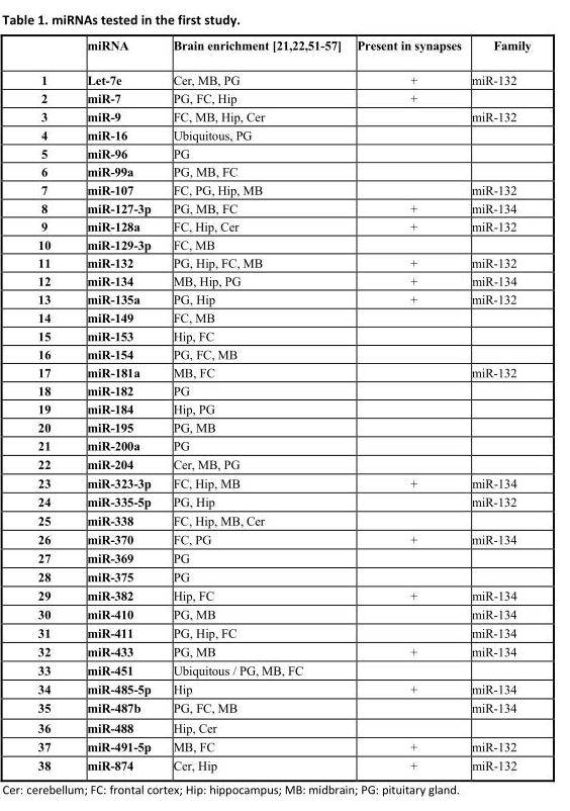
<table><thead><tr><td></td><td>miRNA</td><td>Brain enrichment [21,22,51-57]</td><td>Present in synapses</td><td>Family</td></tr></thead><tbody><tr><td>1</td><td>Let-7e</td><td>Cer, MB, PG</td><td>+</td><td>miR-132</td></tr><tr><td>2</td><td>miR-7</td><td>PG, FC, Hip</td><td>+</td><td></td></tr><tr><td>3</td><td>miR-9</td><td>FC, MB, Hip, Cer</td><td></td><td>miR-132</td></tr><tr><td>4</td><td>miR-16</td><td>Ubiquitous, PG</td><td></td><td></td></tr><tr><td>5</td><td>miR-96</td><td>PG</td><td></td><td></td></tr><tr><td>6</td><td>miR-99a</td><td>PG, MB, FC</td><td></td><td></td></tr><tr><td>7</td><td>miR-107</td><td>FC, PG, Hip, MB</td><td></td><td>miR-132</td></tr><tr><td>8</td><td>miR-127-3p</td><td>PG, MB, FC</td><td>+</td><td>miR-134</td></tr><tr><td>9</td><td>miR-128a</td><td>FC, Hip, Cer</td><td>+</td><td>miR-132</td></tr><tr><td>10</td><td>miR-129-3p</td><td>FC, MB</td><td></td><td></td></tr><tr><td>11</td><td>miR-132</td><td>PG, Hip, FC, MB</td><td>+</td><td>miR-132</td></tr><tr><td>12</td><td>miR-134</td><td>MB, Hip, PG</td><td>+</td><td>miR-134</td></tr><tr><td>13</td><td>miR-135a</td><td>PG, Hip</td><td>+</td><td>miR-132</td></tr><tr><td>14</td><td>miR-149</td><td>FC, MB</td><td></td><td></td></tr><tr><td>15</td><td>miR-153</td><td>Hip, FC</td><td></td><td></td></tr><tr><td>16</td><td>miR-154</td><td>PG, FC, MB</td><td></td><td></td></tr><tr><td>17</td><td>miR-181a</td><td>MB, FC</td><td></td><td>miR-132</td></tr><tr><td>18</td><td>miR-182</td><td>PG</td><td></td><td></td></tr><tr><td>19</td><td>miR-184</td><td>Hip, PG</td><td></td><td></td></tr><tr><td>20</td><td>miR-195</td><td>PG, MB</td><td></td><td></td></tr><tr><td>21</td><td>miR-200a</td><td>PG</td><td></td><td></td></tr><tr><td>22</td><td>miR-204</td><td>Cer, MB, PG</td><td></td><td></td></tr><tr><td>23</td><td>miR-323-3p</td><td>FC, Hip, MB</td><td>+</td><td>miR-134</td></tr><tr><td>24</td><td>miR-335-5p</td><td>PG, Hip</td><td></td><td>miR-132</td></tr><tr><td>25</td><td>miR-338</td><td>FC, Hip, MB, Cer</td><td></td><td></td></tr><tr><td>26</td><td>miR-370</td><td>FC, PG</td><td>+</td><td>miR-134</td></tr><tr><td>27</td><td>miR-369</td><td>PG</td><td></td><td></td></tr><tr><td>28</td><td>miR-375</td><td>PG</td><td></td><td></td></tr><tr><td>29</td><td>miR-382</td><td>Hip, FC</td><td>+</td><td>miR-134</td></tr><tr><td>30</td><td>miR-410</td><td>PG, MB</td><td></td><td>miR-134</td></tr><tr><td>31</td><td>miR-411</td><td>PG, Hip, FC</td><td></td><td>miR-134</td></tr><tr><td>32</td><td>miR-433</td><td>PG, MB</td><td>+</td><td>miR-134</td></tr><tr><td>33</td><td>miR-451</td><td>Ubiquitous / PG, MB, FC</td><td></td><td></td></tr><tr><td>34</td><td>miR-485-5p</td><td>Hip</td><td>+</td><td>miR-134</td></tr><tr><td>35</td><td>miR-487b</td><td>PG, FC, MB</td><td></td><td>miR-134</td></tr><tr><td>36</td><td>miR-488</td><td>Hip, Cer</td><td></td><td></td></tr><tr><td>37</td><td>miR-491-5p</td><td>MB, FC</td><td>+</td><td>miR-132</td></tr><tr><td>38</td><td>miR-874</td><td>Cer, Hip</td><td>+</td><td>miR-132</td></tr></tbody></table>